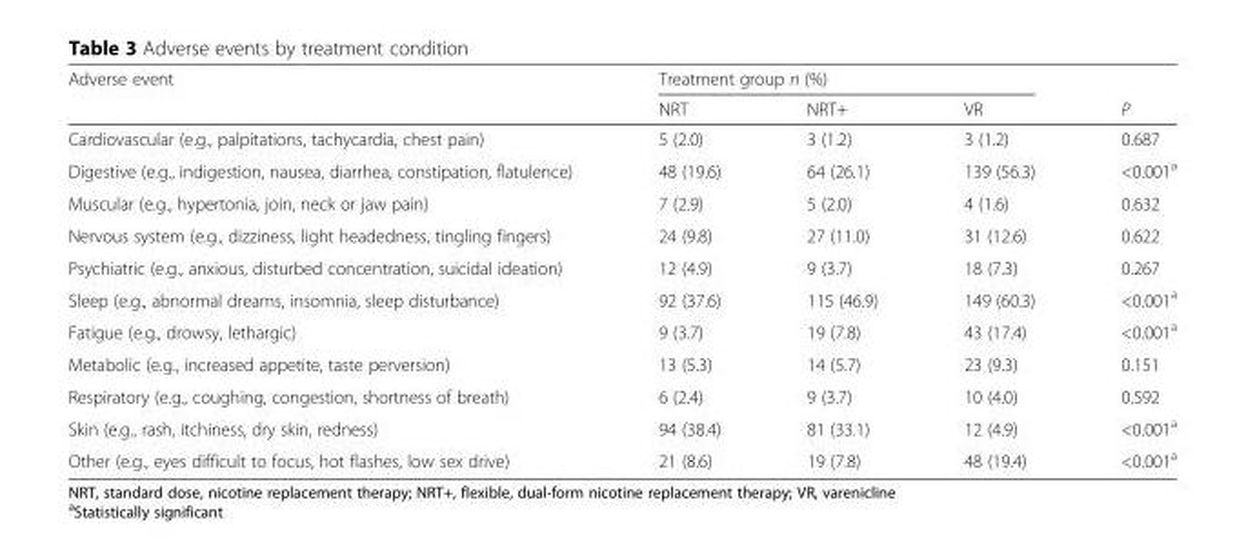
<table><thead><tr><td rowspan="2">Adverse event</td><td colspan="3">Treatment group n (%)</td><td rowspan="2">P</td></tr><tr><td>NRT</td><td>NRT+</td><td>VR</td></tr></thead><tbody><tr><td>Cardiovascular (e.g., palpitations, tachycardia, chest pain)</td><td>5 (2.0)</td><td>3 (1.2)</td><td>3 (1.2)</td><td>0.687</td></tr><tr><td>Digestive (e.g., indigestion, nausea, diarrhea, constipation, flatulence)</td><td>48 (19.6)</td><td>64 (26.1)</td><td>139 (56.3)</td><td>&lt;0.001<sup>a</sup></td></tr><tr><td>Muscular (e.g., hypertonia, join, neck or jaw pain)</td><td>7 (2.9)</td><td>5 (2.0)</td><td>4 (1.6)</td><td>0.632</td></tr><tr><td>Nervous system (e.g., dizziness, light headedness, tingling fingers)</td><td>24 (9.8)</td><td>27 (11.0)</td><td>31 (12.6)</td><td>0.622</td></tr><tr><td>Psychiatric (e.g., anxious, disturbed concentration, suicidal ideation)</td><td>12 (4.9)</td><td>9 (3.7)</td><td>18 (7.3)</td><td>0.267</td></tr><tr><td>Sleep (e.g., abnormal dreams, insomnia, sleep disturbance)</td><td>92 (37.6)</td><td>115 (46.9)</td><td>149 (60.3)</td><td>&lt;0.001<sup>a</sup></td></tr><tr><td>Fatigue (e.g., drowsy, lethargic)</td><td>9 (3.7)</td><td>19 (7.8)</td><td>43 (17.4)</td><td>&lt;0.001<sup>a</sup></td></tr><tr><td>Metabolic (e.g., increased appetite, taste perversion)</td><td>13 (5.3)</td><td>14 (5.7)</td><td>23 (9.3)</td><td>0.151</td></tr><tr><td>Respiratory (e.g., coughing, congestion, shortness of breath)</td><td>6 (2.4)</td><td>9 (3.7)</td><td>10 (4.0)</td><td>0.592</td></tr><tr><td>Skin (e.g., rash, itchiness, dry skin, redness)</td><td>94 (38.4)</td><td>81 (33.1)</td><td>12 (4.9)</td><td>&lt;0.001<sup>a</sup></td></tr><tr><td>Other (e.g., eyes difficult to focus, hot flashes, low sex drive)</td><td>21 (8.6)</td><td>19 (7.8)</td><td>48 (19.4)</td><td>&lt;0.001<sup>a</sup></td></tr></tbody></table>